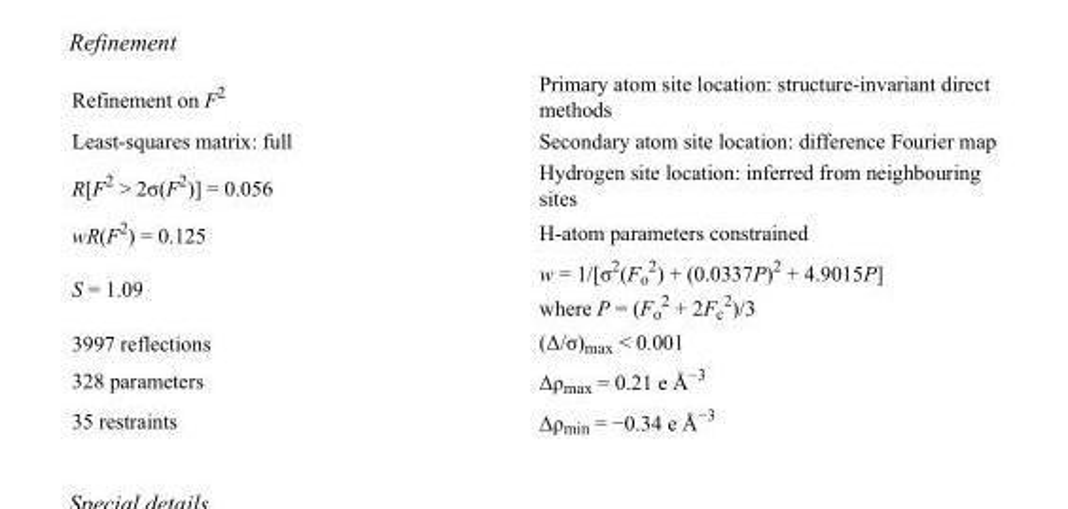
<table><tbody><tr><td>Refinement on F<sup>2</sup></td><td>Primary atom site location: structure-invariant direct methods</td></tr><tr><td>Least-squares matrix: full</td><td>Secondary atom site location: difference Fourier map</td></tr><tr><td>R[F<sup>2</sup> &gt; 2σ(F<sup>2</sup>)] = 0.056</td><td>Hydrogen site location: inferred from neighbouring sites</td></tr><tr><td>wR(F<sup>2</sup>) = 0.125</td><td>H-atom parameters constrained</td></tr><tr><td>S = 1.09</td><td>w = 1/[σ<sup>2</sup>(F<sub>o</sub> <sup>2</sup>) + (0.0337P)<sup>2</sup> + 4.9015P] where P = (F<sub>o</sub> <sup>2</sup> + 2F<sub>c</sub> <sup>2</sup>)/3</td></tr><tr><td>3997 reflections</td><td>(Δ/σ)<sub>max</sub> &lt; 0.001</td></tr><tr><td>328 parameters</td><td>Δρ<sub>max</sub> = 0.21 e Å<sup>−3</sup></td></tr><tr><td>35 restraints</td><td>Δρ<sub>min</sub> = −0.34 e Å<sup>−3</sup></td></tr></tbody></table>